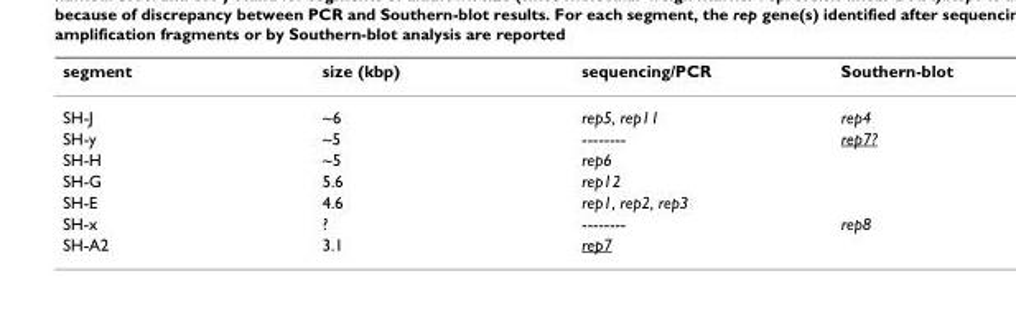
<table><thead><tr><td>segment</td><td>size (kbp)</td><td>sequencing/PCR</td><td>Southern-blot</td></tr></thead><tbody><tr><td>SH-J</td><td>~6</td><td>rep5, rep11</td><td>rep4</td></tr><tr><td>SH-y</td><td>~5</td><td>--------</td><td>rep7?</td></tr><tr><td>SH-H</td><td>~5</td><td>rep6</td><td></td></tr><tr><td>SH-G</td><td>5.6</td><td>rep12</td><td></td></tr><tr><td>SH-E</td><td>4.6</td><td>rep1, rep2, rep3</td><td></td></tr><tr><td>SH-x</td><td>?</td><td>--------</td><td>rep8</td></tr><tr><td>SH-A2</td><td>3.1</td><td>rep7</td><td></td></tr></tbody></table>